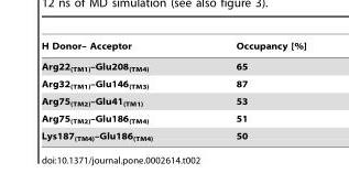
<table><thead><tr><td>H Donor– Acceptor</td><td>Occupancy [%]</td></tr></thead><tbody><tr><td>Arg22<sub>(TM1)</sub>–Glu208<sub>(TM4)</sub></td><td>65</td></tr><tr><td>Arg32<sub>(TM1)</sub>–Glu146<sub>(TM3)</sub></td><td>87</td></tr><tr><td>Arg75<sub>(TM2)</sub>–Glu41<sub>(TM1)</sub></td><td>53</td></tr><tr><td>Arg75<sub>(TM2)</sub>–Glu186<sub>(TM4)</sub></td><td>51</td></tr><tr><td>Lys187<sub>(TM4)</sub>–Glu186<sub>(TM4)</sub></td><td>50</td></tr></tbody></table>